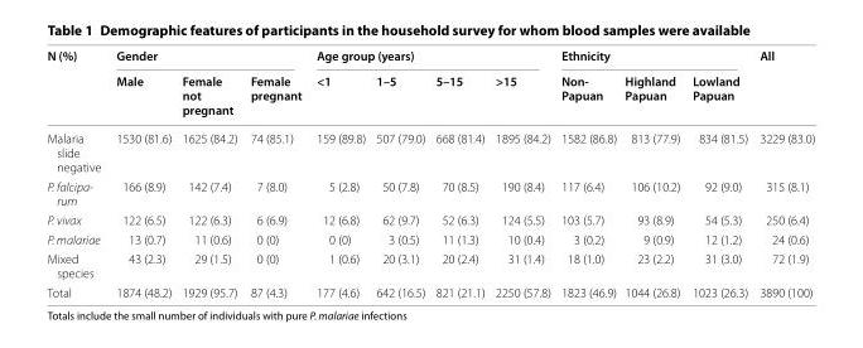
<table><thead><tr><td rowspan="2">N (%)</td><td colspan="3">Gender</td><td colspan="4">Age group (years)</td><td colspan="3">Ethnicity</td><td rowspan="2">All</td></tr><tr><td>Male</td><td>Female not pregnant</td><td>Female pregnant</td><td>&lt;1</td><td>1–5</td><td>5–15</td><td>&gt;15</td><td>Non‑ Papuan</td><td>Highland Papuan</td><td>Lowland Papuan</td></tr></thead><tbody><tr><td>Malaria slide negative</td><td>1530 (81.6)</td><td>1625 (84.2)</td><td>74 (85.1)</td><td>159 (89.8)</td><td>507 (79.0)</td><td>668 (81.4)</td><td>1895 (84.2)</td><td>1582 (86.8)</td><td>813 (77.9)</td><td>834 (81.5)</td><td>3229 (83.0)</td></tr><tr><td>P. falcipa- rum</td><td>166 (8.9)</td><td>142 (7.4)</td><td>7 (8.0)</td><td>5 (2.8)</td><td>50 (7.8)</td><td>70 (8.5)</td><td>190 (8.4)</td><td>117 (6.4)</td><td>106 (10.2)</td><td>92 (9.0)</td><td>315 (8.1)</td></tr><tr><td>P. vivax</td><td>122 (6.5)</td><td>122 (6.3)</td><td>6 (6.9)</td><td>12 (6.8)</td><td>62 (9.7)</td><td>52 (6.3)</td><td>124 (5.5)</td><td>103 (5.7)</td><td>93 (8.9)</td><td>54 (5.3)</td><td>250 (6.4)</td></tr><tr><td>P. malariae</td><td>13 (0.7)</td><td>11 (0.6)</td><td>0 (0)</td><td>0 (0)</td><td>3 (0.5)</td><td>11 (1.3)</td><td>10 (0.4)</td><td>3 (0.2)</td><td>9 (0.9)</td><td>12 (1.2)</td><td>24 (0.6)</td></tr><tr><td>Mixed species</td><td>43 (2.3)</td><td>29 (1.5)</td><td>0 (0)</td><td>1 (0.6)</td><td>20 (3.1)</td><td>20 (2.4)</td><td>31 (1.4)</td><td>18 (1.0)</td><td>23 (2.2)</td><td>31 (3.0)</td><td>72 (1.9)</td></tr><tr><td>Total</td><td>1874 (48.2)</td><td>1929 (95.7)</td><td>87 (4.3)</td><td>177 (4.6)</td><td>642 (16.5)</td><td>821 (21.1)</td><td>2250 (57.8)</td><td>1823 (46.9)</td><td>1044 (26.8)</td><td>1023 (26.3)</td><td>3890 (100)</td></tr></tbody></table>